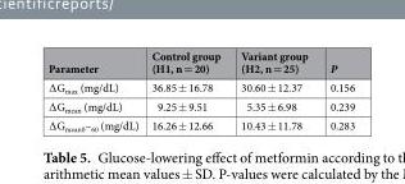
<table><thead><tr><td>Parameter</td><td>Control group (H1, n = 20)</td><td>Variant group (H2, n = 25)</td><td>P</td></tr></thead><tbody><tr><td>∆G<sub>max</sub> (mg/dL)</td><td>36.85 ± 16.78</td><td>30.60 ± 12.37</td><td>0.156</td></tr><tr><td>∆G<sub>mean</sub> (mg/dL)</td><td>9.25 ± 9.51</td><td>5.35 ± 6.98</td><td>0.239</td></tr><tr><td>∆G<sub>mean0</sub>–<sub>60</sub> (mg/dL)</td><td>16.26 ± 12.66</td><td>10.43 ± 11.78</td><td>0.283</td></tr></tbody></table>